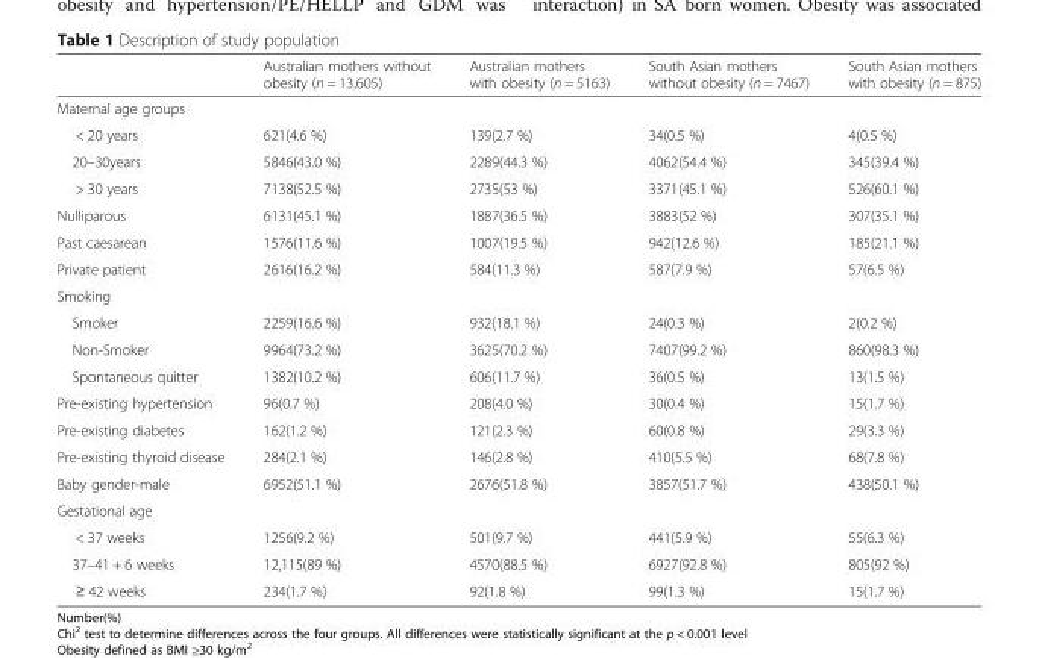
<table><thead><tr><td></td><td>Australian mothers without obesity (n = 13,605)</td><td>Australian mothers with obesity (n = 5163)</td><td>South Asian mothers without obesity (n = 7467)</td><td>South Asian mothers with obesity (n = 875)</td></tr></thead><tbody><tr><td colspan="5">Maternal age groups</td></tr><tr><td>&lt; 20 years</td><td>621(4.6 %)</td><td>139(2.7 %)</td><td>34(0.5 %)</td><td>4(0.5 %)</td></tr><tr><td>20–30years</td><td>5846(43.0 %)</td><td>2289(44.3 %)</td><td>4062(54.4 %)</td><td>345(39.4 %)</td></tr><tr><td>&gt; 30 years</td><td>7138(52.5 %)</td><td>2735(53 %)</td><td>3371(45.1 %)</td><td>526(60.1 %)</td></tr><tr><td>Nulliparous</td><td>6131(45.1 %)</td><td>1887(36.5 %)</td><td>3883(52 %)</td><td>307(35.1 %)</td></tr><tr><td>Past caesarean</td><td>1576(11.6 %)</td><td>1007(19.5 %)</td><td>942(12.6 %)</td><td>185(21.1 %)</td></tr><tr><td>Private patient</td><td>2616(16.2 %)</td><td>584(11.3 %)</td><td>587(7.9 %)</td><td>57(6.5 %)</td></tr><tr><td colspan="5">Smoking</td></tr><tr><td>Smoker</td><td>2259(16.6 %)</td><td>932(18.1 %)</td><td>24(0.3 %)</td><td>2(0.2 %)</td></tr><tr><td>Non-Smoker</td><td>9964(73.2 %)</td><td>3625(70.2 %)</td><td>7407(99.2 %)</td><td>860(98.3 %)</td></tr><tr><td>Spontaneous quitter</td><td>1382(10.2 %)</td><td>606(11.7 %)</td><td>36(0.5 %)</td><td>13(1.5 %)</td></tr><tr><td>Pre-existing hypertension</td><td>96(0.7 %)</td><td>208(4.0 %)</td><td>30(0.4 %)</td><td>15(1.7 %)</td></tr><tr><td>Pre-existing diabetes</td><td>162(1.2 %)</td><td>121(2.3 %)</td><td>60(0.8 %)</td><td>29(3.3 %)</td></tr><tr><td>Pre-existing thyroid disease</td><td>284(2.1 %)</td><td>146(2.8 %)</td><td>410(5.5 %)</td><td>68(7.8 %)</td></tr><tr><td>Baby gender-male</td><td>6952(51.1 %)</td><td>2676(51.8 %)</td><td>3857(51.7 %)</td><td>438(50.1 %)</td></tr><tr><td colspan="5">Gestational age</td></tr><tr><td>&lt; 37 weeks</td><td>1256(9.2 %)</td><td>501(9.7 %)</td><td>441(5.9 %)</td><td>55(6.3 %)</td></tr><tr><td>37–41 + 6 weeks</td><td>12,115(89 %)</td><td>4570(88.5 %)</td><td>6927(92.8 %)</td><td>805(92 %)</td></tr><tr><td>≥ 42 weeks</td><td>234(1.7 %)</td><td>92(1.8 %)</td><td>99(1.3 %)</td><td>15(1.7 %)</td></tr></tbody></table>